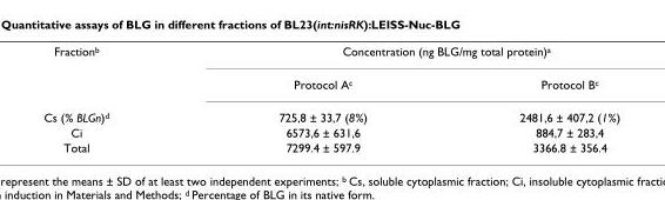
<table><tbody><tr><td rowspan="2">Fraction<sup>b</sup></td><td colspan="2">Concentration (ng BLG/mg total protein)<sup>a</sup></td></tr><tr><td>Protocol A<sup>c</sup></td><td>Protocol B<sup>c</sup></td></tr><tr><td>Cs (% BLGn)<sup>d</sup></td><td>725,8 ± 33,7 (8%)</td><td>2481,6 ± 407,2 (1%)</td></tr><tr><td>Ci</td><td>6573,6 ± 631,6</td><td>884,7 ± 283,4</td></tr><tr><td>Total</td><td>7299.4 ± 597.9</td><td>3366.8 ± 356.4</td></tr></tbody></table>